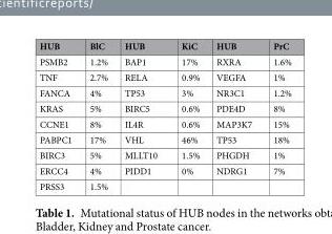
<table><thead><tr><td>HUB</td><td>BlC</td><td>HUB</td><td>KiC</td><td>HUB</td><td>PrC</td></tr></thead><tbody><tr><td>PSMB2</td><td>1.2%</td><td>BAP1</td><td>17%</td><td>RXRA</td><td>1.6%</td></tr><tr><td>TNF</td><td>2.7%</td><td>RELA</td><td>0.9%</td><td>VEGFA</td><td>1%</td></tr><tr><td>FANCA</td><td>4%</td><td>TP53</td><td>3%</td><td>NR3C1</td><td>1.2%</td></tr><tr><td>KRAS</td><td>5%</td><td>BIRC5</td><td>0.6%</td><td>PDE4D</td><td>8%</td></tr><tr><td>CCNE1</td><td>8%</td><td>IL4R</td><td>0.6%</td><td>MAP3K7</td><td>15%</td></tr><tr><td>PABPC1</td><td>17%</td><td>VHL</td><td>46%</td><td>TP53</td><td>18%</td></tr><tr><td>BIRC3</td><td>5%</td><td>MLLT10</td><td>1.5%</td><td>PHGDH</td><td>1%</td></tr><tr><td>ERCC4</td><td>4%</td><td>PIDD1</td><td>0%</td><td>NDRG1</td><td>7%</td></tr><tr><td>PRSS3</td><td>1.5%</td><td></td><td></td><td></td><td></td></tr></tbody></table>